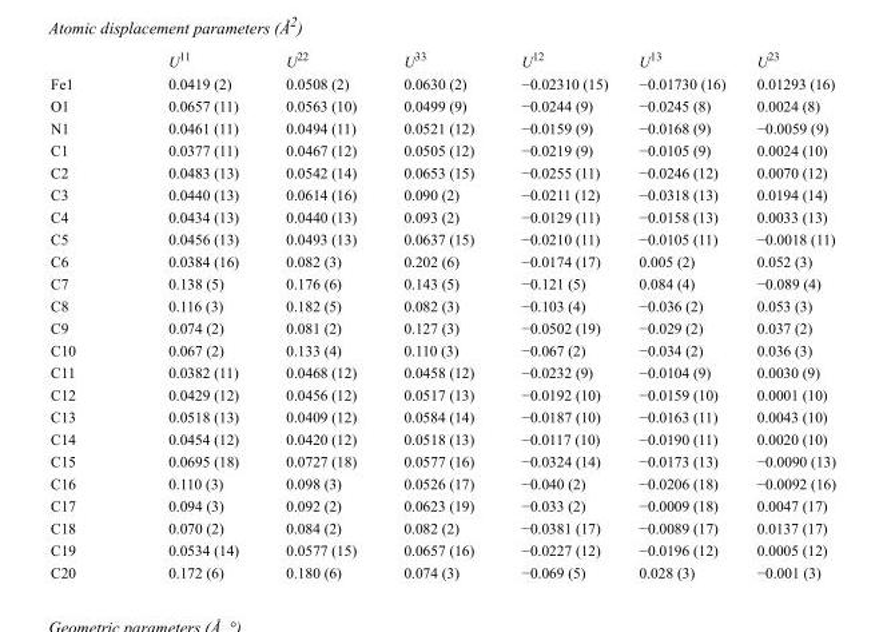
<table><thead><tr><td></td><td>U<sup>11</sup></td><td>U<sup>22</sup></td><td>U<sup>33</sup></td><td>U<sup>12</sup></td><td>U<sup>13</sup></td><td>U<sup>23</sup></td></tr></thead><tbody><tr><td>Fe1</td><td>0.0419 (2)</td><td>0.0508 (2)</td><td>0.0630 (2)</td><td>−0.02310 (15)</td><td>−0.01730 (16)</td><td>0.01293 (16)</td></tr><tr><td>O1</td><td>0.0657 (11)</td><td>0.0563 (10)</td><td>0.0499 (9)</td><td>−0.0244 (9)</td><td>−0.0245 (8)</td><td>0.0024 (8)</td></tr><tr><td>N1</td><td>0.0461 (11)</td><td>0.0494 (11)</td><td>0.0521 (12)</td><td>−0.0159 (9)</td><td>−0.0168 (9)</td><td>−0.0059 (9)</td></tr><tr><td>C1</td><td>0.0377 (11)</td><td>0.0467 (12)</td><td>0.0505 (12)</td><td>−0.0219 (9)</td><td>−0.0105 (9)</td><td>0.0024 (10)</td></tr><tr><td>C2</td><td>0.0483 (13)</td><td>0.0542 (14)</td><td>0.0653 (15)</td><td>−0.0255 (11)</td><td>−0.0246 (12)</td><td>0.0070 (12)</td></tr><tr><td>C3</td><td>0.0440 (13)</td><td>0.0614 (16)</td><td>0.090 (2)</td><td>−0.0211 (12)</td><td>−0.0318 (13)</td><td>0.0194 (14)</td></tr><tr><td>C4</td><td>0.0434 (13)</td><td>0.0440 (13)</td><td>0.093 (2)</td><td>−0.0129 (11)</td><td>−0.0158 (13)</td><td>0.0033 (13)</td></tr><tr><td>C5</td><td>0.0456 (13)</td><td>0.0493 (13)</td><td>0.0637 (15)</td><td>−0.0210 (11)</td><td>−0.0105 (11)</td><td>−0.0018 (11)</td></tr><tr><td>C6</td><td>0.0384 (16)</td><td>0.082 (3)</td><td>0.202 (6)</td><td>−0.0174 (17)</td><td>0.005 (2)</td><td>0.052 (3)</td></tr><tr><td>C7</td><td>0.138 (5)</td><td>0.176 (6)</td><td>0.143 (5)</td><td>−0.121 (5)</td><td>0.084 (4)</td><td>−0.089 (4)</td></tr><tr><td>C8</td><td>0.116 (3)</td><td>0.182 (5)</td><td>0.082 (3)</td><td>−0.103 (4)</td><td>−0.036 (2)</td><td>0.053 (3)</td></tr><tr><td>C9</td><td>0.074 (2)</td><td>0.081 (2)</td><td>0.127 (3)</td><td>−0.0502 (19)</td><td>−0.029 (2)</td><td>0.037 (2)</td></tr><tr><td>C10</td><td>0.067 (2)</td><td>0.133 (4)</td><td>0.110 (3)</td><td>−0.067 (2)</td><td>−0.034 (2)</td><td>0.036 (3)</td></tr><tr><td>C11</td><td>0.0382 (11)</td><td>0.0468 (12)</td><td>0.0458 (12)</td><td>−0.0232 (9)</td><td>−0.0104 (9)</td><td>0.0030 (9)</td></tr><tr><td>C12</td><td>0.0429 (12)</td><td>0.0456 (12)</td><td>0.0517 (13)</td><td>−0.0192 (10)</td><td>−0.0159 (10)</td><td>0.0001 (10)</td></tr><tr><td>C13</td><td>0.0518 (13)</td><td>0.0409 (12)</td><td>0.0584 (14)</td><td>−0.0187 (10)</td><td>−0.0163 (11)</td><td>0.0043 (10)</td></tr><tr><td>C14</td><td>0.0454 (12)</td><td>0.0420 (12)</td><td>0.0518 (13)</td><td>−0.0117 (10)</td><td>−0.0190 (11)</td><td>0.0020 (10)</td></tr><tr><td>C15</td><td>0.0695 (18)</td><td>0.0727 (18)</td><td>0.0577 (16)</td><td>−0.0324 (14)</td><td>−0.0173 (13)</td><td>−0.0090 (13)</td></tr><tr><td>C16</td><td>0.110 (3)</td><td>0.098 (3)</td><td>0.0526 (17)</td><td>−0.040 (2)</td><td>−0.0206 (18)</td><td>−0.0092 (16)</td></tr><tr><td>C17</td><td>0.094 (3)</td><td>0.092 (2)</td><td>0.0623 (19)</td><td>−0.033 (2)</td><td>−0.0009 (18)</td><td>0.0047 (17)</td></tr><tr><td>C18</td><td>0.070 (2)</td><td>0.084 (2)</td><td>0.082 (2)</td><td>−0.0381 (17)</td><td>−0.0089 (17)</td><td>0.0137 (17)</td></tr><tr><td>C19</td><td>0.0534 (14)</td><td>0.0577 (15)</td><td>0.0657 (16)</td><td>−0.0227 (12)</td><td>−0.0196 (12)</td><td>0.0005 (12)</td></tr><tr><td>C20</td><td>0.172 (6)</td><td>0.180 (6)</td><td>0.074 (3)</td><td>−0.069 (5)</td><td>0.028 (3)</td><td>−0.001 (3)</td></tr></tbody></table>